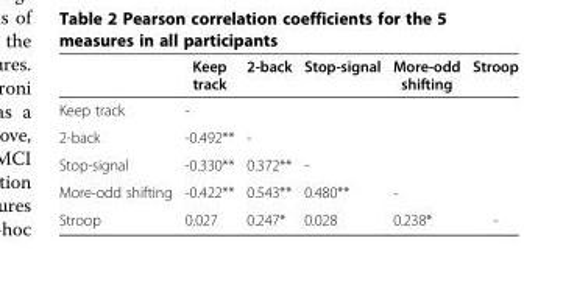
<table><thead><tr><td></td><td>Keep track</td><td>2-back</td><td>Stop-signal</td><td>More-odd shifting</td><td>Stroop</td></tr></thead><tbody><tr><td>Keep track</td><td>-</td><td></td><td></td><td></td><td></td></tr><tr><td>2-back</td><td>-0.492**</td><td>-</td><td></td><td></td><td></td></tr><tr><td>Stop-signal</td><td>-0.330**</td><td>0.372**</td><td>-</td><td></td><td></td></tr><tr><td>More-odd shifting</td><td>-0.422**</td><td>0.543**</td><td>0.480**</td><td>-</td><td></td></tr><tr><td>Stroop</td><td>0.027</td><td>0.247*</td><td>0.028</td><td>0.238*</td><td>-</td></tr></tbody></table>